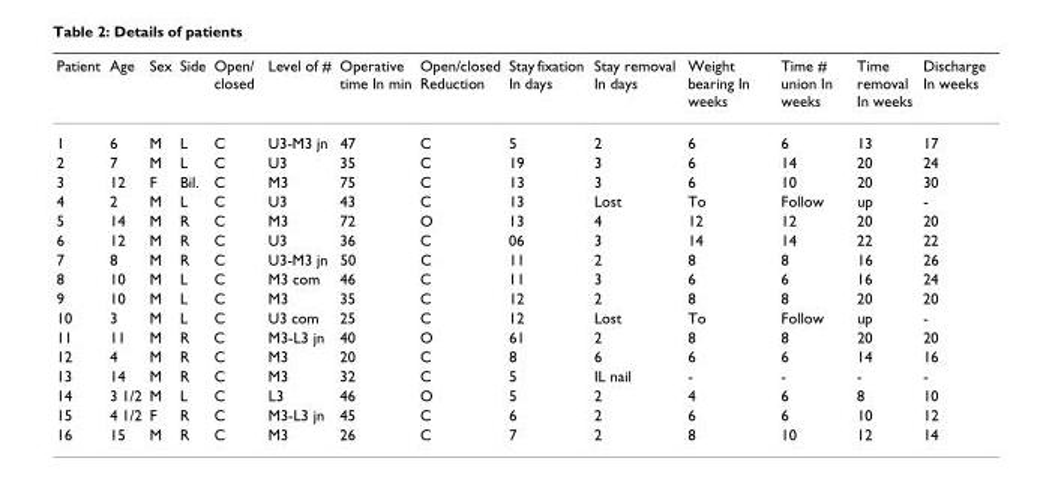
<table><thead><tr><td>Patient</td><td>Age</td><td>Sex</td><td>Side</td><td>Open/ closed</td><td>Level of #</td><td>Operative time In min</td><td>Open/closed Reduction</td><td>Stay fixation In days</td><td>Stay removal In days</td><td>Weight bearing In weeks</td><td>Time # union In weeks</td><td>Time removal In weeks</td><td>Discharge In weeks</td></tr></thead><tbody><tr><td>1</td><td>6</td><td>M</td><td>L</td><td>C</td><td>U3-M3 jn</td><td>47</td><td>C</td><td>5</td><td>2</td><td>6</td><td>6</td><td>13</td><td>17</td></tr><tr><td>2</td><td>7</td><td>M</td><td>L</td><td>C</td><td>U3</td><td>35</td><td>C</td><td>19</td><td>3</td><td>6</td><td>14</td><td>20</td><td>24</td></tr><tr><td>3</td><td>12</td><td>F</td><td>Bil.</td><td>C</td><td>M3</td><td>75</td><td>C</td><td>13</td><td>3</td><td>6</td><td>10</td><td>20</td><td>30</td></tr><tr><td>4</td><td>2</td><td>M</td><td>L</td><td>C</td><td>U3</td><td>43</td><td>C</td><td>13</td><td>Lost</td><td>To</td><td>Follow</td><td>up</td><td>-</td></tr><tr><td>5</td><td>14</td><td>M</td><td>R</td><td>C</td><td>M3</td><td>72</td><td>O</td><td>13</td><td>4</td><td>12</td><td>12</td><td>20</td><td>20</td></tr><tr><td>6</td><td>12</td><td>M</td><td>R</td><td>C</td><td>U3</td><td>36</td><td>C</td><td>06</td><td>3</td><td>14</td><td>14</td><td>22</td><td>22</td></tr><tr><td>7</td><td>8</td><td>M</td><td>R</td><td>C</td><td>U3-M3 jn</td><td>50</td><td>C</td><td>11</td><td>2</td><td>8</td><td>8</td><td>16</td><td>26</td></tr><tr><td>8</td><td>10</td><td>M</td><td>L</td><td>C</td><td>M3 com</td><td>46</td><td>C</td><td>11</td><td>3</td><td>6</td><td>6</td><td>16</td><td>24</td></tr><tr><td>9</td><td>10</td><td>M</td><td>L</td><td>C</td><td>M3</td><td>35</td><td>C</td><td>12</td><td>2</td><td>8</td><td>8</td><td>20</td><td>20</td></tr><tr><td>10</td><td>3</td><td>M</td><td>L</td><td>C</td><td>U3 com</td><td>25</td><td>C</td><td>12</td><td>Lost</td><td>To</td><td>Follow</td><td>up</td><td>-</td></tr><tr><td>11</td><td>11</td><td>M</td><td>R</td><td>C</td><td>M3-L3 jn</td><td>40</td><td>O</td><td>61</td><td>2</td><td>8</td><td>8</td><td>20</td><td>20</td></tr><tr><td>12</td><td>4</td><td>M</td><td>R</td><td>C</td><td>M3</td><td>20</td><td>C</td><td>8</td><td>6</td><td>6</td><td>6</td><td>14</td><td>16</td></tr><tr><td>13</td><td>14</td><td>M</td><td>R</td><td>C</td><td>M3</td><td>32</td><td>C</td><td>5</td><td>IL nail</td><td>-</td><td>-</td><td>-</td><td>-</td></tr><tr><td>14</td><td>3 1/2</td><td>M</td><td>L</td><td>C</td><td>L3</td><td>46</td><td>O</td><td>5</td><td>2</td><td>4</td><td>6</td><td>8</td><td>10</td></tr><tr><td>15</td><td>4 1/2</td><td>F</td><td>R</td><td>C</td><td>M3-L3 jn</td><td>45</td><td>C</td><td>6</td><td>2</td><td>6</td><td>6</td><td>10</td><td>12</td></tr><tr><td>16</td><td>15</td><td>M</td><td>R</td><td>C</td><td>M3</td><td>26</td><td>C</td><td>7</td><td>2</td><td>8</td><td>10</td><td>12</td><td>14</td></tr></tbody></table>